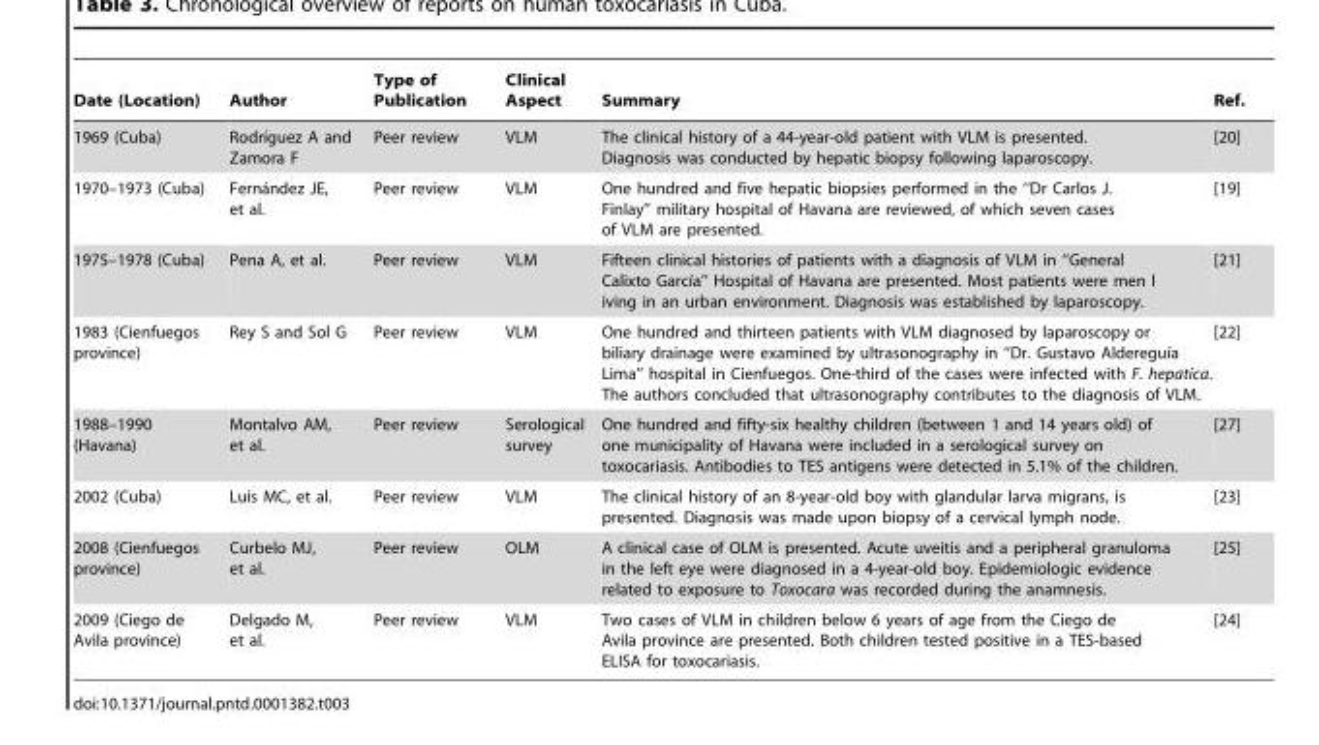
<table><thead><tr><td>Date (Location)</td><td>Author</td><td>Type of Publication</td><td>Clinical Aspect</td><td>Summary</td><td>Ref.</td></tr></thead><tbody><tr><td>1969 (Cuba)</td><td>Rodrı´guez A and Zamora F</td><td>Peer review</td><td>VLM</td><td>The clinical history of a 44-year-old patient with VLM is presented. Diagnosis was conducted by hepatic biopsy following laparoscopy.</td><td>[20]</td></tr><tr><td>1970–1973 (Cuba)</td><td>Ferna´ndez JE, et al.</td><td>Peer review</td><td>VLM</td><td>One hundred and five hepatic biopsies performed in the ‘‘Dr Carlos J. Finlay’’ military hospital of Havana are reviewed, of which seven cases of VLM are presented.</td><td>[19]</td></tr><tr><td>1975–1978 (Cuba)</td><td>Pena A, et al.</td><td>Peer review</td><td>VLM</td><td>Fifteen clinical histories of patients with a diagnosis of VLM in ‘‘General Calixto Garcı´a’’ Hospital of Havana are presented. Most patients were men l iving in an urban environment. Diagnosis was established by laparoscopy.</td><td>[21]</td></tr><tr><td>1983 (Cienfuegos province)</td><td>Rey S and Sol G</td><td>Peer review</td><td>VLM</td><td>One hundred and thirteen patients with VLM diagnosed by laparoscopy or biliary drainage were examined by ultrasonography in ‘‘Dr. Gustavo Aldereguı´a Lima’’ hospital in Cienfuegos. One-third of the cases were infected with F. hepatica. The authors concluded that ultrasonography contributes to the diagnosis of VLM.</td><td>[22]</td></tr><tr><td>1988–1990 (Havana)</td><td>Montalvo AM, et al.</td><td>Peer review</td><td>Serological survey</td><td>One hundred and fifty-six healthy children (between 1 and 14 years old) of one municipality of Havana were included in a serological survey on toxocariasis. Antibodies to TES antigens were detected in 5.1% of the children.</td><td>[27]</td></tr><tr><td>2002 (Cuba)</td><td>Luis MC, et al.</td><td>Peer review</td><td>VLM</td><td>The clinical history of an 8-year-old boy with glandular larva migrans, is presented. Diagnosis was made upon biopsy of a cervical lymph node.</td><td>[23]</td></tr><tr><td>2008 (Cienfuegos province)</td><td>Curbelo MJ, et al.</td><td>Peer review</td><td>OLM</td><td>A clinical case of OLM is presented. Acute uveitis and a peripheral granuloma in the left eye were diagnosed in a 4-year-old boy. Epidemiologic evidence related to exposure to Toxocara was recorded during the anamnesis.</td><td>[25]</td></tr><tr><td>2009 (Ciego de Avila province)</td><td>Delgado M, et al.</td><td>Peer review</td><td>VLM</td><td>Two cases of VLM in children below 6 years of age from the Ciego de Avila province are presented. Both children tested positive in a TES-based ELISA for toxocariasis.</td><td>[24]</td></tr></tbody></table>